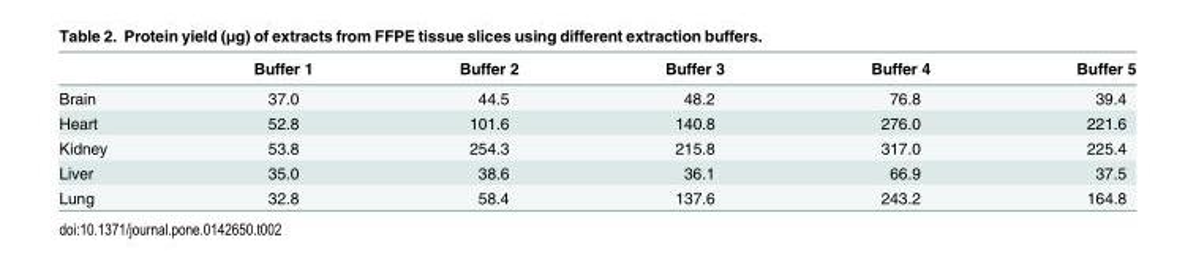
<table><thead><tr><td></td><td>Buffer 1</td><td>Buffer 2</td><td>Buffer 3</td><td>Buffer 4</td><td>Buffer 5</td></tr></thead><tbody><tr><td>Brain</td><td>37.0</td><td>44.5</td><td>48.2</td><td>76.8</td><td>39.4</td></tr><tr><td>Heart</td><td>52.8</td><td>101.6</td><td>140.8</td><td>276.0</td><td>221.6</td></tr><tr><td>Kidney</td><td>53.8</td><td>254.3</td><td>215.8</td><td>317.0</td><td>225.4</td></tr><tr><td>Liver</td><td>35.0</td><td>38.6</td><td>36.1</td><td>66.9</td><td>37.5</td></tr><tr><td>Lung</td><td>32.8</td><td>58.4</td><td>137.6</td><td>243.2</td><td>164.8</td></tr></tbody></table>